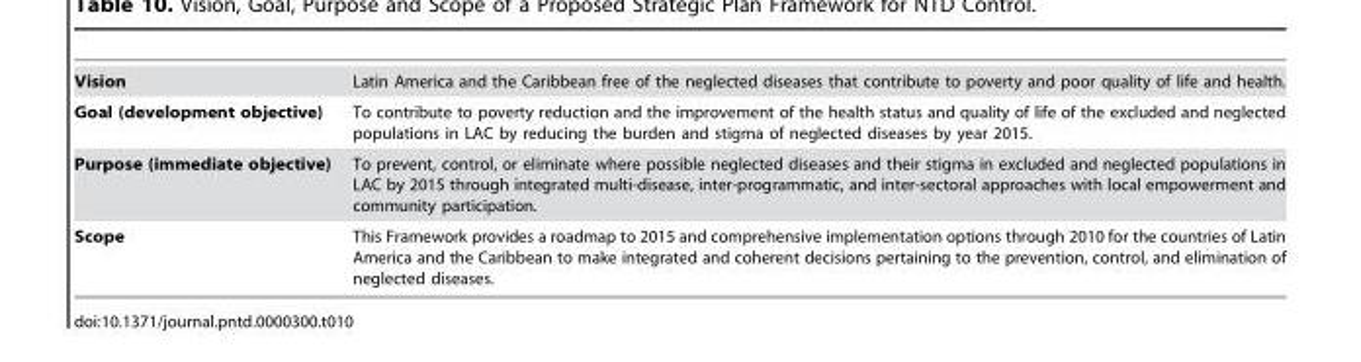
<table><tbody><tr><td>Vision</td><td>Latin America and the Caribbean free of the neglected diseases that contribute to poverty and poor quality of life and health.</td></tr><tr><td>Goal (development objective)</td><td>To contribute to poverty reduction and the improvement of the health status and quality of life of the excluded and neglected populations in LAC by reducing the burden and stigma of neglected diseases by year 2015.</td></tr><tr><td>Purpose (immediate objective)</td><td>To prevent, control, or eliminate where possible neglected diseases and their stigma in excluded and neglected populations in LAC by 2015 through integrated multi-disease, inter-programmatic, and inter-sectoral approaches with local empowerment and community participation.</td></tr><tr><td>Scope</td><td>This Framework provides a roadmap to 2015 and comprehensive implementation options through 2010 for the countries of Latin America and the Caribbean to make integrated and coherent decisions pertaining to the prevention, control, and elimination of neglected diseases.</td></tr></tbody></table>